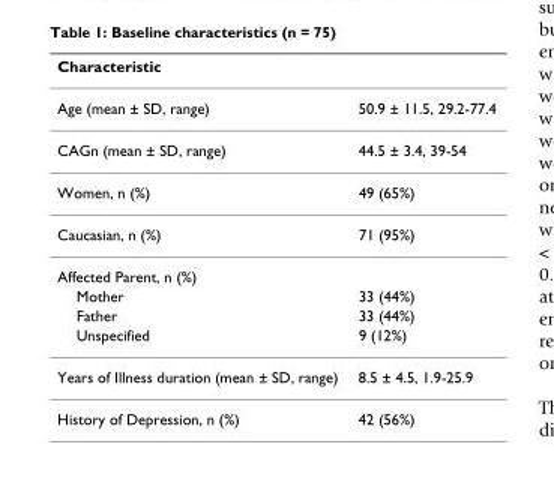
<table><thead><tr><td>Characteristic</td><td></td></tr></thead><tbody><tr><td>Age (mean ± SD, range)</td><td>50.9 ± 11.5, 29.2-77.4</td></tr><tr><td>CAGn (mean ± SD, range)</td><td>44.5 ± 3.4, 39-54</td></tr><tr><td>Women, n (%)</td><td>49 (65%)</td></tr><tr><td>Caucasian, n (%)</td><td>71 (95%)</td></tr><tr><td colspan="2">Affected Parent, n (%)</td></tr><tr><td>Mother</td><td>33 (44%)</td></tr><tr><td>Father</td><td>33 (44%)</td></tr><tr><td>Unspecified</td><td>9 (12%)</td></tr><tr><td>Years of Illness duration (mean ± SD, range)</td><td>8.5 ± 4.5, 1.9-25.9</td></tr><tr><td>History of Depression, n (%)</td><td>42 (56%)</td></tr></tbody></table>